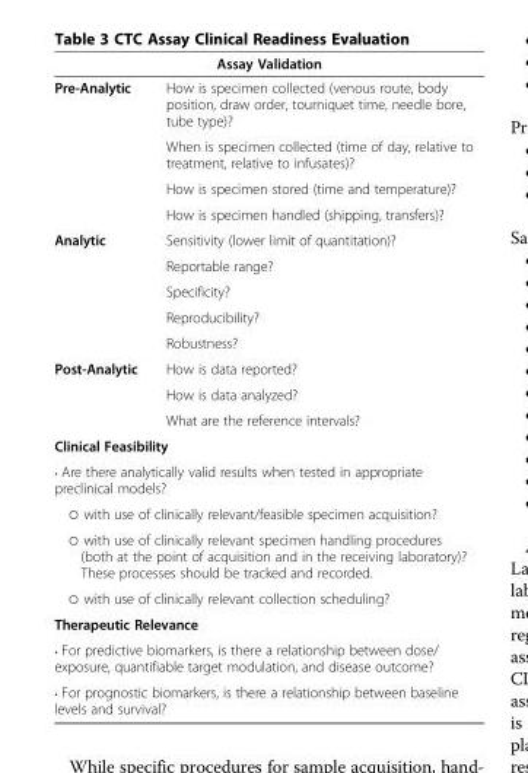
<table><thead><tr><td colspan="2">Assay Validation</td></tr><tr><td>Pre-Analytic</td><td>How is specimen collected (venous route, body position, draw order, tourniquet time, needle bore, tube type)?</td></tr></thead><tbody><tr><td></td><td>When is specimen collected (time of day, relative to treatment, relative to infusates)?</td></tr><tr><td></td><td>How is specimen stored (time and temperature)?</td></tr><tr><td></td><td>How is specimen handled (shipping, transfers)?</td></tr><tr><td rowspan="5">Analytic</td><td>Sensitivity (lower limit of quantitation)?</td></tr><tr><td>Reportable range?</td></tr><tr><td>Specificity?</td></tr><tr><td>Reproducibility?</td></tr><tr><td>Robustness?</td></tr><tr><td rowspan="3">Post-Analytic</td><td>How is data reported?</td></tr><tr><td>How is data analyzed?</td></tr><tr><td>What are the reference intervals?</td></tr><tr><td colspan="2">Clinical Feasibility</td></tr><tr><td colspan="2">• Are there analytically valid results when tested in appropriate preclinical models?</td></tr><tr><td colspan="2">○ with use of clinically relevant/feasible specimen acquisition?</td></tr><tr><td colspan="2">○ with use of clinically relevant specimen handling procedures (both at the point of acquisition and in the receiving laboratory)? These processes should be tracked and recorded.</td></tr><tr><td colspan="2">○ with use of clinically relevant collection scheduling?</td></tr><tr><td colspan="2">Therapeutic Relevance</td></tr><tr><td colspan="2">• For predictive biomarkers, is there a relationship between dose/ exposure, quantifiable target modulation, and disease outcome?</td></tr><tr><td colspan="2">• For prognostic biomarkers, is there a relationship between baseline levels and survival?</td></tr></tbody></table>